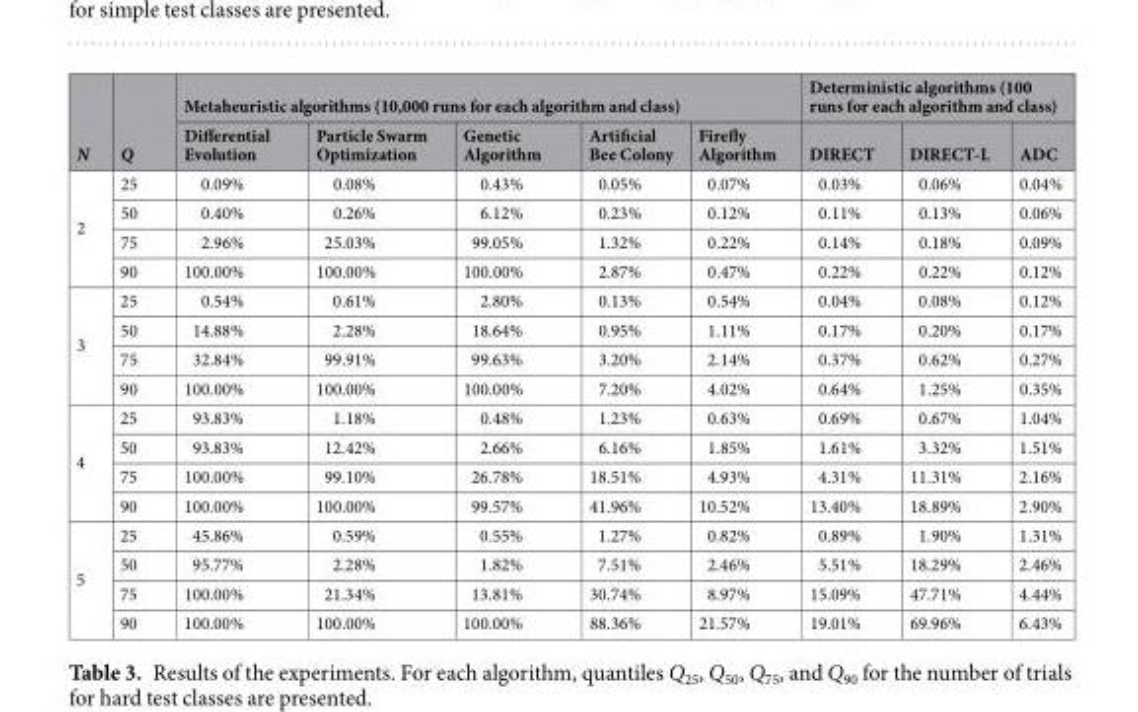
<table><thead><tr><td rowspan="2">N</td><td rowspan="2">Q</td><td colspan="5">Metaheuristic algorithms (10,000 runs for each algorithm and class)</td><td colspan="3">Deterministic algorithms (100 runs for each algorithm and class)</td></tr><tr><td>Differential Evolution</td><td>Particle Swarm Optimization</td><td>Genetic Algorithm</td><td>Artificial Bee Colony</td><td>Firefly Algorithm</td><td>DIRECT</td><td>DIRECT-L</td><td>ADC</td></tr></thead><tbody><tr><td rowspan="4">2</td><td>25</td><td>0.09%</td><td>0.08%</td><td>0.43%</td><td>0.05%</td><td>0.07%</td><td>0.03%</td><td>0.06%</td><td>0.04%</td></tr><tr><td>50</td><td>0.40%</td><td>0.26%</td><td>6.12%</td><td>0.23%</td><td>0.12%</td><td>0.11%</td><td>0.13%</td><td>0.06%</td></tr><tr><td>75</td><td>2.96%</td><td>25.03%</td><td>99.05%</td><td>1.32%</td><td>0.22%</td><td>0.14%</td><td>0.18%</td><td>0.09%</td></tr><tr><td>90</td><td>100.00%</td><td>100.00%</td><td>100.00%</td><td>2.87%</td><td>0.47%</td><td>0.22%</td><td>0.22%</td><td>0.12%</td></tr><tr><td rowspan="4">3</td><td>25</td><td>0.54%</td><td>0.61%</td><td>2.80%</td><td>0.13%</td><td>0.54%</td><td>0.04%</td><td>0.08%</td><td>0.12%</td></tr><tr><td>50</td><td>14.88%</td><td>2.28%</td><td>18.64%</td><td>0.95%</td><td>1.11%</td><td>0.17%</td><td>0.20%</td><td>0.17%</td></tr><tr><td>75</td><td>32.84%</td><td>99.91%</td><td>99.63%</td><td>3.20%</td><td>2.14%</td><td>0.37%</td><td>0.62%</td><td>0.27%</td></tr><tr><td>90</td><td>100.00%</td><td>100.00%</td><td>100.00%</td><td>7.20%</td><td>4.02%</td><td>0.64%</td><td>1.25%</td><td>0.35%</td></tr><tr><td rowspan="4">4</td><td>25</td><td>93.83%</td><td>1.18%</td><td>0.48%</td><td>1.23%</td><td>0.63%</td><td>0.69%</td><td>0.67%</td><td>1.04%</td></tr><tr><td>50</td><td>93.83%</td><td>12.42%</td><td>2.66%</td><td>6.16%</td><td>1.85%</td><td>1.61%</td><td>3.32%</td><td>1.51%</td></tr><tr><td>75</td><td>100.00%</td><td>99.10%</td><td>26.78%</td><td>18.51%</td><td>4.93%</td><td>4.31%</td><td>11.31%</td><td>2.16%</td></tr><tr><td>90</td><td>100.00%</td><td>100.00%</td><td>99.57%</td><td>41.96%</td><td>10.52%</td><td>13.40%</td><td>18.89%</td><td>2.90%</td></tr><tr><td rowspan="4">5</td><td>25</td><td>45.86%</td><td>0.59%</td><td>0.55%</td><td>1.27%</td><td>0.82%</td><td>0.89%</td><td>1.90%</td><td>1.31%</td></tr><tr><td>50</td><td>95.77%</td><td>2.28%</td><td>1.82%</td><td>7.51%</td><td>2.46%</td><td>5.51%</td><td>18.29%</td><td>2.46%</td></tr><tr><td>75</td><td>100.00%</td><td>21.34%</td><td>13.81%</td><td>30.74%</td><td>8.97%</td><td>15.09%</td><td>47.71%</td><td>4.44%</td></tr><tr><td>90</td><td>100.00%</td><td>100.00%</td><td>100.00%</td><td>88.36%</td><td>21.57%</td><td>19.01%</td><td>69.96%</td><td>6.43%</td></tr></tbody></table>